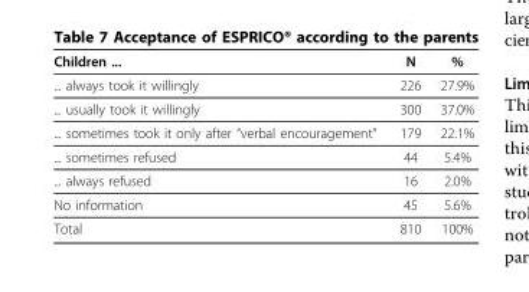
<table><thead><tr><td>Children ...</td><td>N</td><td>%</td></tr></thead><tbody><tr><td>... always took it willingly</td><td>226</td><td>27.9%</td></tr><tr><td>... usually took it willingly</td><td>300</td><td>37.0%</td></tr><tr><td>... sometimes took it only after “verbal encouragement”</td><td>179</td><td>22.1%</td></tr><tr><td>... sometimes refused</td><td>44</td><td>5.4%</td></tr><tr><td>... always refused</td><td>16</td><td>2.0%</td></tr><tr><td>No information</td><td>45</td><td>5.6%</td></tr><tr><td>Total</td><td>810</td><td>100%</td></tr></tbody></table>